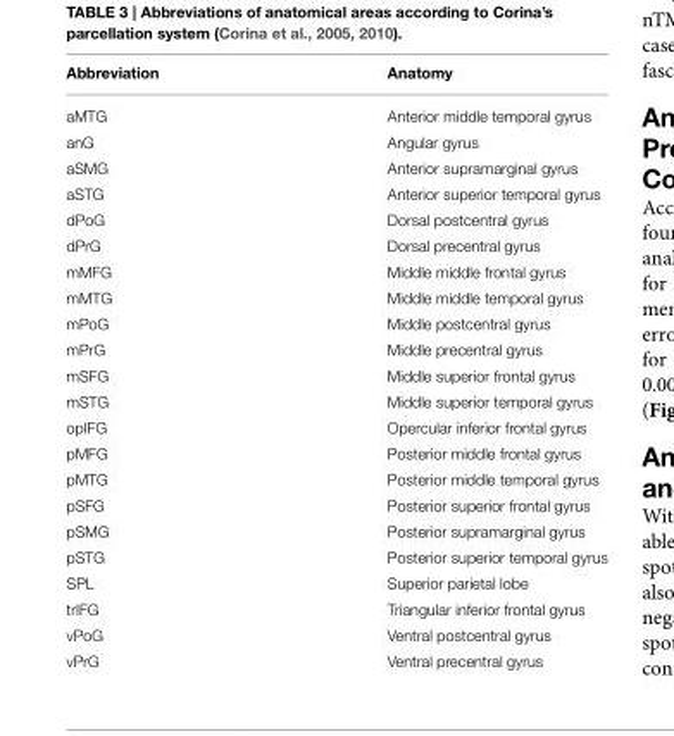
<table><thead><tr><td>Abbreviation</td><td>Anatomy</td></tr></thead><tbody><tr><td>aMTG</td><td>Anterior middle temporal gyrus</td></tr><tr><td>anG</td><td>Angular gyrus</td></tr><tr><td>aSMG</td><td>Anterior supramarginal gyrus</td></tr><tr><td>aSTG</td><td>Anterior superior temporal gyrus</td></tr><tr><td>dPoG</td><td>Dorsal postcentral gyrus</td></tr><tr><td>dPrG</td><td>Dorsal precentral gyrus</td></tr><tr><td>mMFG</td><td>Middle middle frontal gyrus</td></tr><tr><td>mMTG</td><td>Middle middle temporal gyrus</td></tr><tr><td>mPoG</td><td>Middle postcentral gyrus</td></tr><tr><td>mPrG</td><td>Middle precentral gyrus</td></tr><tr><td>mSFG</td><td>Middle superior frontal gyrus</td></tr><tr><td>mSTG</td><td>Middle superior temporal gyrus</td></tr><tr><td>opIFG</td><td>Opercular inferior frontal gyrus</td></tr><tr><td>pMFG</td><td>Posterior middle frontal gyrus</td></tr><tr><td>pMTG</td><td>Posterior middle temporal gyrus</td></tr><tr><td>pSFG</td><td>Posterior superior frontal gyrus</td></tr><tr><td>pSMG</td><td>Posterior supramarginal gyrus</td></tr><tr><td>pSTG</td><td>Posterior superior temporal gyrus</td></tr><tr><td>SPL</td><td>Superior parietal lobe</td></tr><tr><td>trIFG</td><td>Triangular inferior frontal gyrus</td></tr><tr><td>vPoG</td><td>Ventral postcentral gyrus</td></tr><tr><td>vPrG</td><td>Ventral precentral gyrus</td></tr></tbody></table>